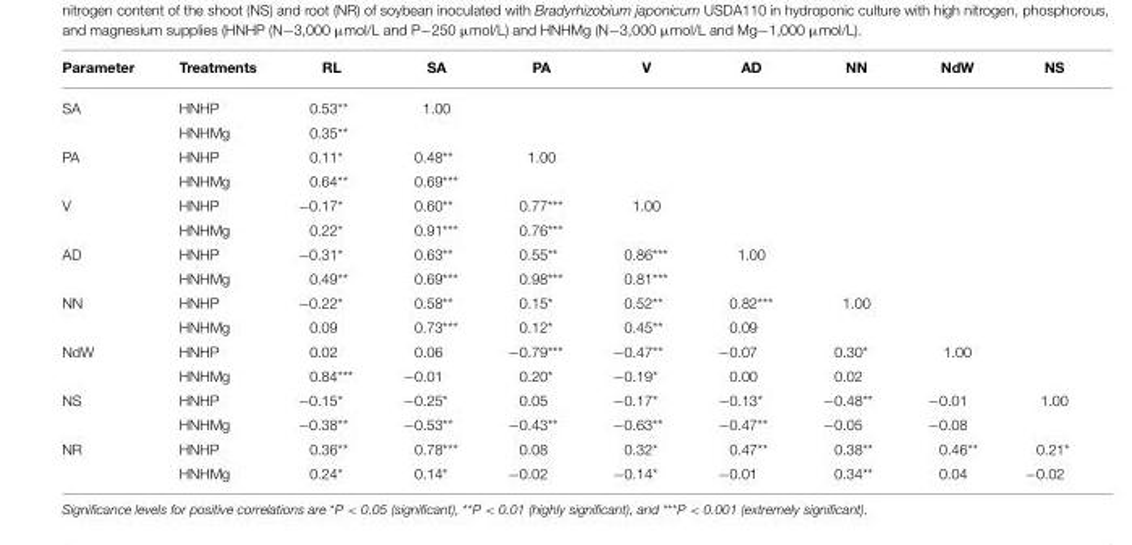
<table><thead><tr><td>Parameter</td><td>Treatments</td><td>RL</td><td>SA</td><td>PA</td><td>V</td><td>AD</td><td>NN</td><td>NdW</td><td>NS</td></tr></thead><tbody><tr><td rowspan="2">SA</td><td>HNHP</td><td>0.53**</td><td>1.00</td><td></td><td></td><td></td><td></td><td></td><td></td></tr><tr><td>HNHMg</td><td>0.35**</td><td></td><td></td><td></td><td></td><td></td><td></td><td></td></tr><tr><td rowspan="2">PA</td><td>HNHP</td><td>0.11*</td><td>0.48**</td><td>1.00</td><td></td><td></td><td></td><td></td><td></td></tr><tr><td>HNHMg</td><td>0.64**</td><td>0.69***</td><td></td><td></td><td></td><td></td><td></td><td></td></tr><tr><td rowspan="2">V</td><td>HNHP</td><td>−0.17*</td><td>0.60**</td><td>0.77***</td><td>1.00</td><td></td><td></td><td></td><td></td></tr><tr><td>HNHMg</td><td>0.22*</td><td>0.91***</td><td>0.76***</td><td></td><td></td><td></td><td></td><td></td></tr><tr><td rowspan="2">AD</td><td>HNHP</td><td>−0.31*</td><td>0.63**</td><td>0.55**</td><td>0.86***</td><td>1.00</td><td></td><td></td><td></td></tr><tr><td>HNHMg</td><td>0.49**</td><td>0.69***</td><td>0.98***</td><td>0.81***</td><td></td><td></td><td></td><td></td></tr><tr><td rowspan="2">NN</td><td>HNHP</td><td>−0.22*</td><td>0.58**</td><td>0.15*</td><td>0.52**</td><td>0.82***</td><td>1.00</td><td></td><td></td></tr><tr><td>HNHMg</td><td>0.09</td><td>0.73***</td><td>0.12*</td><td>0.45**</td><td>0.09</td><td></td><td></td><td></td></tr><tr><td rowspan="2">NdW</td><td>HNHP</td><td>0.02</td><td>0.06</td><td>−0.79***</td><td>−0.47**</td><td>−0.07</td><td>0.30*</td><td>1.00</td><td></td></tr><tr><td>HNHMg</td><td>0.84***</td><td>−0.01</td><td>0.20*</td><td>−0.19*</td><td>0.00</td><td>0.02</td><td></td><td></td></tr><tr><td rowspan="2">NS</td><td>HNHP</td><td>−0.15*</td><td>−0.25*</td><td>0.05</td><td>−0.17*</td><td>−0.13*</td><td>−0.48**</td><td>−0.01</td><td>1.00</td></tr><tr><td>HNHMg</td><td>−0.38**</td><td>−0.53**</td><td>−0.43**</td><td>−0.63**</td><td>−0.47**</td><td>−0.05</td><td>−0.08</td><td></td></tr><tr><td rowspan="2">NR</td><td>HNHP</td><td>0.36**</td><td>0.78***</td><td>0.08</td><td>0.32*</td><td>0.47**</td><td>0.38**</td><td>0.46**</td><td>0.21*</td></tr><tr><td>HNHMg</td><td>0.24*</td><td>0.14*</td><td>−0.02</td><td>−0.14*</td><td>−0.01</td><td>0.34**</td><td>0.04</td><td>−0.02</td></tr></tbody></table>